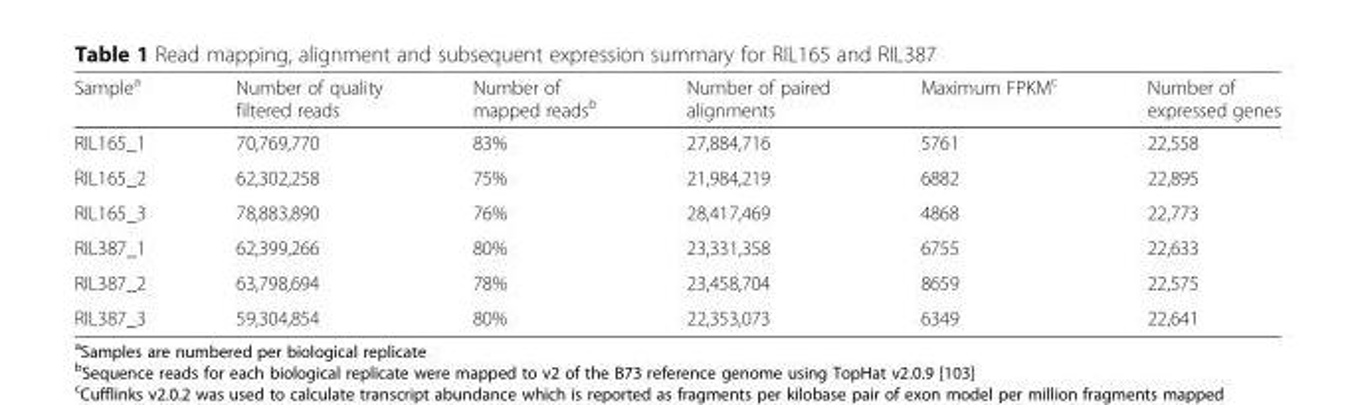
<table><thead><tr><td>Sample<sup>a</sup></td><td>Number of quality filtered reads</td><td>Number of mapped reads<sup>b</sup></td><td>Number of paired alignments</td><td>Maximum FPKM<sup>c</sup></td><td>Number of expressed genes</td></tr></thead><tbody><tr><td>RIL165_1</td><td>70,769,770</td><td>83%</td><td>27,884,716</td><td>5761</td><td>22,558</td></tr><tr><td>RIL165_2</td><td>62,302,258</td><td>75%</td><td>21,984,219</td><td>6882</td><td>22,895</td></tr><tr><td>RIL165_3</td><td>78,883,890</td><td>76%</td><td>28,417,469</td><td>4868</td><td>22,773</td></tr><tr><td>RIL387_1</td><td>62,399,266</td><td>80%</td><td>23,331,358</td><td>6755</td><td>22,633</td></tr><tr><td>RIL387_2</td><td>63,798,694</td><td>78%</td><td>23,458,704</td><td>8659</td><td>22,575</td></tr><tr><td>RIL387_3</td><td>59,304,854</td><td>80%</td><td>22,353,073</td><td>6349</td><td>22,641</td></tr></tbody></table>